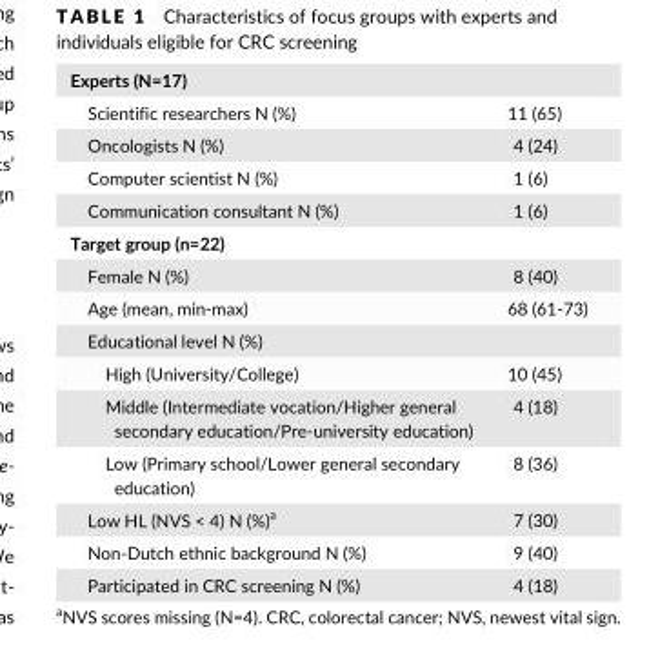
<table><tbody><tr><td colspan="2">Experts (N=17)</td></tr><tr><td>Scientific researchers N (%)</td><td>11 (65)</td></tr><tr><td>Oncologists N (%)</td><td>4 (24)</td></tr><tr><td>Computer scientist N (%)</td><td>1 (6)</td></tr><tr><td>Communication consultant N (%)</td><td>1 (6)</td></tr><tr><td colspan="2">Target group (n=22)</td></tr><tr><td>Female N (%)</td><td>8 (40)</td></tr><tr><td>Age (mean, min-max)</td><td>68 (61- 73)</td></tr><tr><td colspan="2">Educational level N (%)</td></tr><tr><td>High (University/College)</td><td>10 (45)</td></tr><tr><td>Middle (Intermediate vocation/Higher general secondary education/Pre- university education)</td><td>4 (18)</td></tr><tr><td>Low (Primary school/Lower general secondary education)</td><td>8 (36)</td></tr><tr><td>Low HL (NVS &lt; 4) N (%)<sup>a</sup></td><td>7 (30)</td></tr><tr><td>Non-Dutch ethnic background N (%)</td><td>9 (40)</td></tr><tr><td>Participated in CRC screening N (%)</td><td>4 (18)</td></tr></tbody></table>